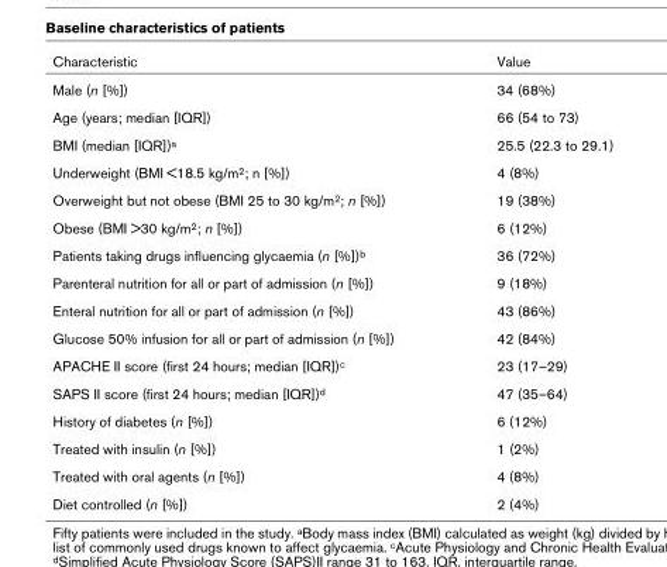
<table><thead><tr><td>Characteristic</td><td>Value</td></tr></thead><tbody><tr><td>Male (n [%])</td><td>34 (68%)</td></tr><tr><td>Age (years; median [IQR])</td><td>66 (54 to 73)</td></tr><tr><td>BMI (median [IQR])<sup>a</sup></td><td>25.5 (22.3 to 29.1)</td></tr><tr><td>Underweight (BMI &lt;18.5 kg/m<sup>2</sup>; n [%])</td><td>4 (8%)</td></tr><tr><td>Overweight but not obese (BMI 25 to 30 kg/m<sup>2</sup>; n [%])</td><td>19 (38%)</td></tr><tr><td>Obese (BMI &gt;30 kg/m<sup>2</sup>; n [%])</td><td>6 (12%)</td></tr><tr><td>Patients taking drugs influencing glycaemia (n [%])<sup>b</sup></td><td>36 (72%)</td></tr><tr><td>Parenteral nutrition for all or part of admission (n [%])</td><td>9 (18%)</td></tr><tr><td>Enteral nutrition for all or part of admission (n [%])</td><td>43 (86%)</td></tr><tr><td>Glucose 50% infusion for all or part of admission (n [%])</td><td>42 (84%)</td></tr><tr><td>APACHE II score (first 24 hours; median [IQR])<sup>c</sup></td><td>23 (17–29)</td></tr><tr><td>SAPS II score (first 24 hours; median [IQR])<sup>d</sup></td><td>47 (35–64)</td></tr><tr><td>History of diabetes (n [%])</td><td>6 (12%)</td></tr><tr><td>Treated with insulin (n [%])</td><td>1 (2%)</td></tr><tr><td>Treated with oral agents (n [%])</td><td>4 (8%)</td></tr><tr><td>Diet controlled (n [%])</td><td>2 (4%)</td></tr></tbody></table>